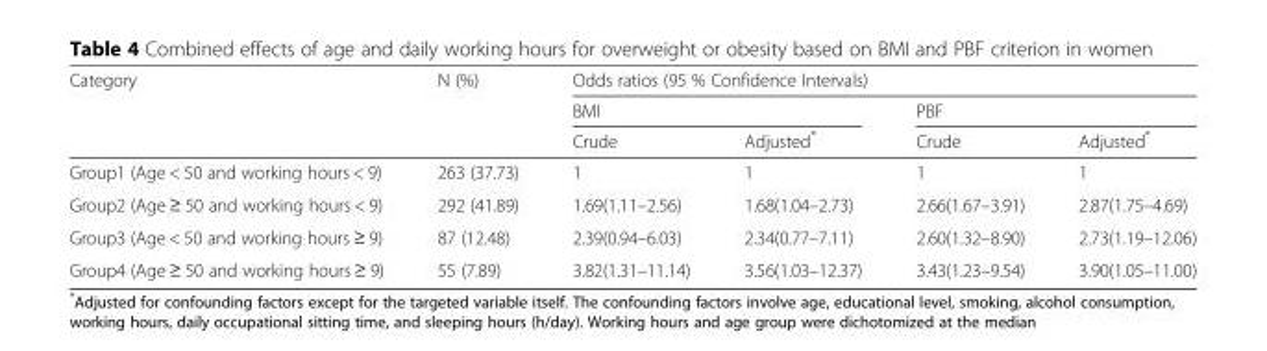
<table><thead><tr><td rowspan="3">Category</td><td rowspan="3">N (%)</td><td colspan="4">Odds ratios (95 % Confidence Intervals)</td></tr><tr><td colspan="2">BMI</td><td colspan="2">PBF</td></tr><tr><td>Crude</td><td>Adjusted*</td><td>Crude</td><td>Adjusted*</td></tr></thead><tbody><tr><td>Group1 (Age &lt; 50 and working hours &lt; 9)</td><td>263 (37.73)</td><td>1</td><td>1</td><td>1</td><td>1</td></tr><tr><td>Group2 (Age ≥ 50 and working hours &lt; 9)</td><td>292 (41.89)</td><td>1.69(1.11–2.56)</td><td>1.68(1.04–2.73)</td><td>2.66(1.67–3.91)</td><td>2.87(1.75–4.69)</td></tr><tr><td>Group3 (Age &lt; 50 and working hours ≥ 9)</td><td>87 (12.48)</td><td>2.39(0.94–6.03)</td><td>2.34(0.77–7.11)</td><td>2.60(1.32–8.90)</td><td>2.73(1.19–12.06)</td></tr><tr><td>Group4 (Age ≥ 50 and working hours ≥ 9)</td><td>55 (7.89)</td><td>3.82(1.31–11.14)</td><td>3.56(1.03–12.37)</td><td>3.43(1.23–9.54)</td><td>3.90(1.05–11.00)</td></tr></tbody></table>